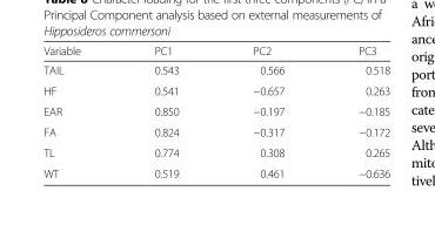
<table><thead><tr><td>Variable</td><td>PC1</td><td>PC2</td><td>PC3</td></tr></thead><tbody><tr><td>TAIL</td><td>0.543</td><td>0.566</td><td>0.518</td></tr><tr><td>HF</td><td>0.541</td><td>−0.657</td><td>0.263</td></tr><tr><td>EAR</td><td>0.850</td><td>−0.197</td><td>−0.185</td></tr><tr><td>FA</td><td>0.824</td><td>−0.317</td><td>−0.172</td></tr><tr><td>TL</td><td>0.774</td><td>0.308</td><td>0.265</td></tr><tr><td>WT</td><td>0.519</td><td>0.461</td><td>−0.636</td></tr></tbody></table>